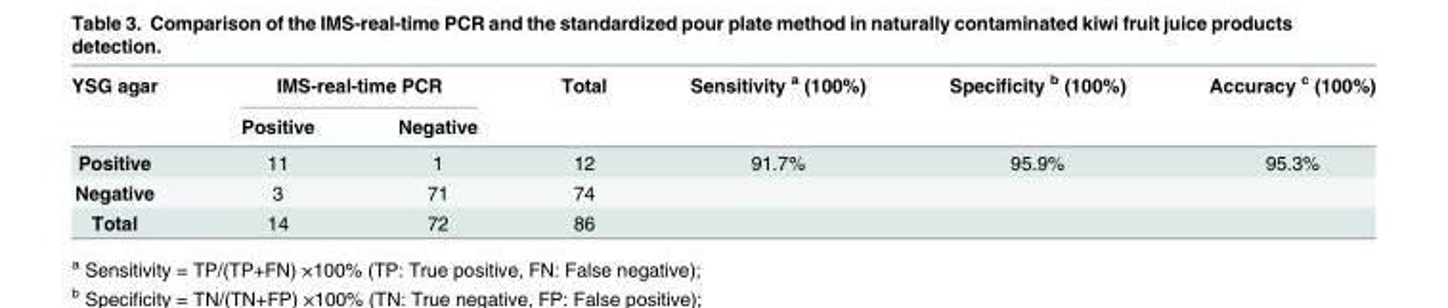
<table><thead><tr><td rowspan="2">YSG agar</td><td colspan="2">IMS-real-time PCR</td><td rowspan="2">Total</td><td rowspan="2">Sensitivity <sup>a</sup> (100%)</td><td rowspan="2">Specificity <sup>b</sup> (100%)</td><td rowspan="2">Accuracy <sup>c</sup> (100%)</td></tr><tr><td>Positive</td><td>Negative</td></tr></thead><tbody><tr><td>Positive</td><td>11</td><td>1</td><td>12</td><td>91.7%</td><td>95.9%</td><td>95.3%</td></tr><tr><td>Negative</td><td>3</td><td>71</td><td>74</td><td></td><td></td><td></td></tr><tr><td>Total</td><td>14</td><td>72</td><td>86</td><td></td><td></td><td></td></tr></tbody></table>